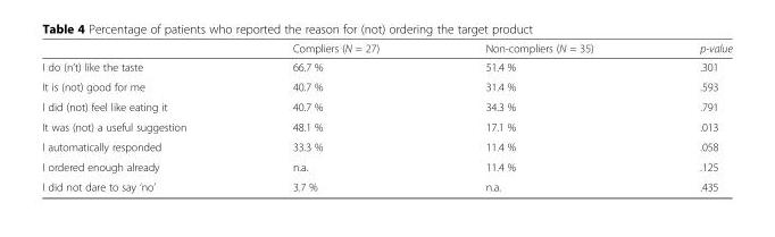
<table><thead><tr><td></td><td>Compliers (N = 27)</td><td>Non-compliers (N = 35)</td><td>p-value</td></tr></thead><tbody><tr><td>I do (n’t) like the taste</td><td>66.7 %</td><td>51.4 %</td><td>.301</td></tr><tr><td>It is (not) good for me</td><td>40.7 %</td><td>31.4 %</td><td>.593</td></tr><tr><td>I did (not) feel like eating it</td><td>40.7 %</td><td>34.3 %</td><td>.791</td></tr><tr><td>It was (not) a useful suggestion</td><td>48.1 %</td><td>17.1 %</td><td>.013</td></tr><tr><td>I automatically responded</td><td>33.3 %</td><td>11.4 %</td><td>.058</td></tr><tr><td>I ordered enough already</td><td>n.a.</td><td>11.4 %</td><td>.125</td></tr><tr><td>I did not dare to say ‘no’</td><td>3.7 %</td><td>n.a.</td><td>.435</td></tr></tbody></table>